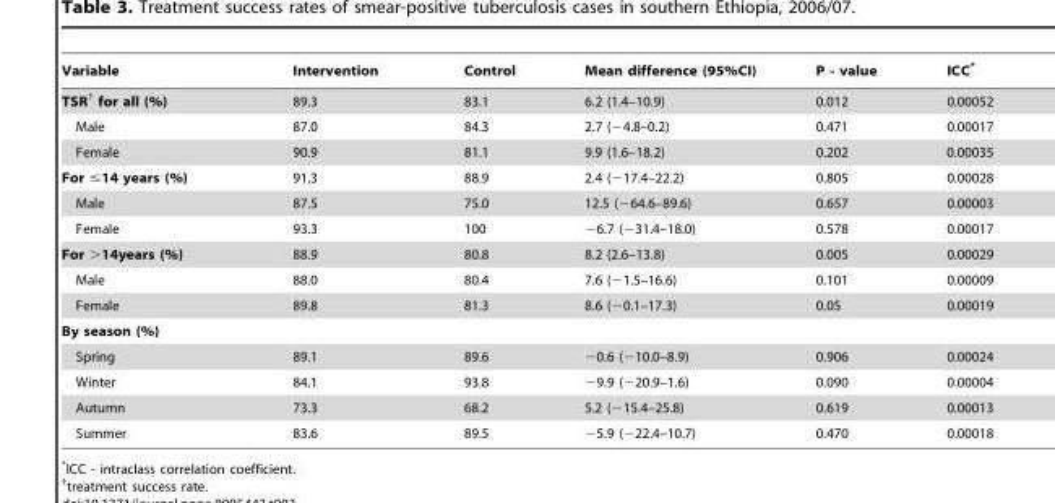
<table><thead><tr><td>Variable</td><td>Intervention</td><td>Control</td><td>Mean difference (95%CI)</td><td>P - value</td><td>ICC*</td></tr></thead><tbody><tr><td>TSR† for all (%)</td><td>89.3</td><td>83.1</td><td>6.2 (1.4–10.9)</td><td>0.012</td><td>0.00052</td></tr><tr><td>Male</td><td>87.0</td><td>84.3</td><td>2.7 (−4.8–0.2)</td><td>0.471</td><td>0.00017</td></tr><tr><td>Female</td><td>90.9</td><td>81.1</td><td>9.9 (1.6–18.2)</td><td>0.202</td><td>0.00035</td></tr><tr><td>For ≤14 years (%)</td><td>91.3</td><td>88.9</td><td>2.4 (−17.4–22.2)</td><td>0.805</td><td>0.00028</td></tr><tr><td>Male</td><td>87.5</td><td>75.0</td><td>12.5 (−64.6–89.6)</td><td>0.657</td><td>0.00003</td></tr><tr><td>Female</td><td>93.3</td><td>100</td><td>−6.7 (−31.4–18.0)</td><td>0.578</td><td>0.00017</td></tr><tr><td>For &gt;14years (%)</td><td>88.9</td><td>80.8</td><td>8.2 (2.6–13.8)</td><td>0.005</td><td>0.00029</td></tr><tr><td>Male</td><td>88.0</td><td>80.4</td><td>7.6 (−1.5–16.6)</td><td>0.101</td><td>0.00009</td></tr><tr><td>Female</td><td>89.8</td><td>81.3</td><td>8.6 (−0.1–17.3)</td><td>0.05</td><td>0.00019</td></tr><tr><td colspan="6">By season (%)</td></tr><tr><td>Spring</td><td>89.1</td><td>89.6</td><td>−0.6 (−10.0–8.9)</td><td>0.906</td><td>0.00024</td></tr><tr><td>Winter</td><td>84.1</td><td>93.8</td><td>−9.9 (−20.9–1.6)</td><td>0.090</td><td>0.00004</td></tr><tr><td>Autumn</td><td>73.3</td><td>68.2</td><td>5.2 (−15.4–25.8)</td><td>0.619</td><td>0.00013</td></tr><tr><td>Summer</td><td>83.6</td><td>89.5</td><td>−5.9 (−22.4–10.7)</td><td>0.470</td><td>0.00018</td></tr></tbody></table>